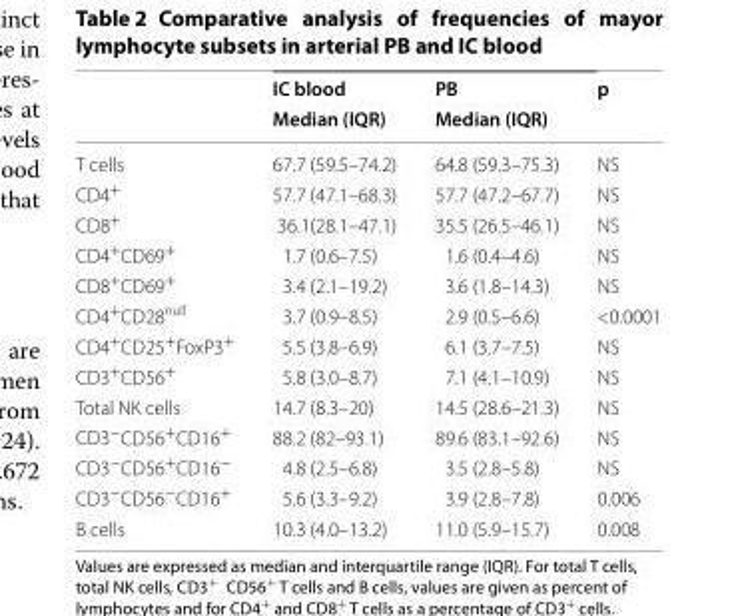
<table><thead><tr><td rowspan="2"></td><td rowspan="2">IC blood Median (IQR)</td><td rowspan="2">PB Median (IQR)</td><td rowspan="2">p</td></tr><tr></tr></thead><tbody><tr><td>T cells</td><td>67.7 (59.5–74.2)</td><td>64.8 (59.3–75.3)</td><td>NS</td></tr><tr><td>CD4<sup>+</sup></td><td>57.7 (47.1–68.3)</td><td>57.7 (47.2–67.7)</td><td>NS</td></tr><tr><td>CD8<sup>+</sup></td><td>36.1(28.1–47.1)</td><td>35.5 (26.5–46.1)</td><td>NS</td></tr><tr><td>CD4<sup>+</sup>CD69<sup>+</sup></td><td>1.7 (0.6–7.5)</td><td>1.6 (0.4–4.6)</td><td>NS</td></tr><tr><td>CD8<sup>+</sup>CD69<sup>+</sup></td><td>3.4 (2.1–19.2)</td><td>3.6 (1.8–14.3)</td><td>NS</td></tr><tr><td>CD4<sup>+</sup>CD28<sup>null</sup></td><td>3.7 (0.9–8.5)</td><td>2.9 (0.5–6.6)</td><td>&lt;0.0001</td></tr><tr><td>CD4<sup>+</sup>CD25<sup>+</sup>FoxP3<sup>+</sup></td><td>5.5 (3.8–6.9)</td><td>6.1 (3.7–7.5)</td><td>NS</td></tr><tr><td>CD3<sup>+</sup>CD56<sup>+</sup></td><td>5.8 (3.0–8.7)</td><td>7.1 (4.1–10.9)</td><td>NS</td></tr><tr><td>Total NK cells</td><td>14.7 (8.3–20)</td><td>14.5 (28.6–21.3)</td><td>NS</td></tr><tr><td>CD3<sup>−</sup>CD56<sup>+</sup>CD16<sup>+</sup></td><td>88.2 (82–93.1)</td><td>89.6 (83.1–92.6)</td><td>NS</td></tr><tr><td>CD3<sup>−</sup>CD56<sup>+</sup>CD16<sup>−</sup></td><td>4.8 (2.5–6.8)</td><td>3.5 (2.8–5.8)</td><td>NS</td></tr><tr><td>CD3<sup>−</sup>CD56<sup>−</sup>CD16<sup>+</sup></td><td>5.6 (3.3–9.2)</td><td>3.9 (2.8–7.8)</td><td>0.006</td></tr><tr><td>B cells</td><td>10.3 (4.0–13.2)</td><td>11.0 (5.9–15.7)</td><td>0.008</td></tr></tbody></table>